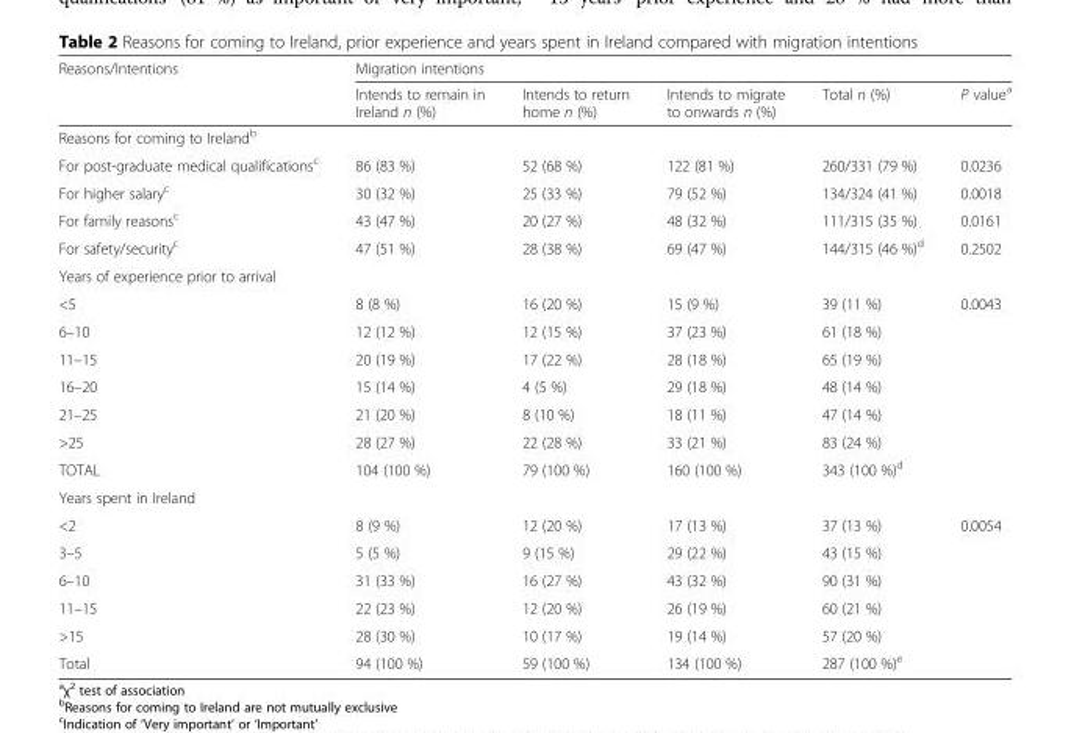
<table><thead><tr><td rowspan="2">Reasons/Intentions</td><td colspan="5">Migration intentions</td></tr><tr><td>Intends to remain in Ireland n (%)</td><td>Intends to return home n (%)</td><td>Intends to migrate to onwards n (%)</td><td>Total n (%)</td><td>P value<sup>a</sup></td></tr></thead><tbody><tr><td colspan="6">Reasons for coming to Ireland<sup>b</sup></td></tr><tr><td>For post-graduate medical qualifications<sup>c</sup></td><td>86 (83 %)</td><td>52 (68 %)</td><td>122 (81 %)</td><td>260/331 (79 %)</td><td>0.0236</td></tr><tr><td>For higher salary<sup>c</sup></td><td>30 (32 %)</td><td>25 (33 %)</td><td>79 (52 %)</td><td>134/324 (41 %)</td><td>0.0018</td></tr><tr><td>For family reasons<sup>c</sup></td><td>43 (47 %)</td><td>20 (27 %)</td><td>48 (32 %)</td><td>111/315 (35 %)</td><td>0.0161</td></tr><tr><td>For safety/security<sup>c</sup></td><td>47 (51 %)</td><td>28 (38 %)</td><td>69 (47 %)</td><td>144/315 (46 %)<sup>d</sup></td><td>0.2502</td></tr><tr><td colspan="6">Years of experience prior to arrival</td></tr><tr><td>&lt;5</td><td>8 (8 %)</td><td>16 (20 %)</td><td>15 (9 %)</td><td>39 (11 %)</td><td rowspan="7">0.0043</td></tr><tr><td>6–10</td><td>12 (12 %)</td><td>12 (15 %)</td><td>37 (23 %)</td><td>61 (18 %)</td></tr><tr><td>11–15</td><td>20 (19 %)</td><td>17 (22 %)</td><td>28 (18 %)</td><td>65 (19 %)</td></tr><tr><td>16–20</td><td>15 (14 %)</td><td>4 (5 %)</td><td>29 (18 %)</td><td>48 (14 %)</td></tr><tr><td>21–25</td><td>21 (20 %)</td><td>8 (10 %)</td><td>18 (11 %)</td><td>47 (14 %)</td></tr><tr><td>&gt;25</td><td>28 (27 %)</td><td>22 (28 %)</td><td>33 (21 %)</td><td>83 (24 %)</td></tr><tr><td>TOTAL</td><td>104 (100 %)</td><td>79 (100 %)</td><td>160 (100 %)</td><td>343 (100 %)<sup>d</sup></td></tr><tr><td colspan="6">Years spent in Ireland</td></tr><tr><td>&lt;2</td><td>8 (9 %)</td><td>12 (20 %)</td><td>17 (13 %)</td><td>37 (13 %)</td><td rowspan="6">0.0054</td></tr><tr><td>3–5</td><td>5 (5 %)</td><td>9 (15 %)</td><td>29 (22 %)</td><td>43 (15 %)</td></tr><tr><td>6–10</td><td>31 (33 %)</td><td>16 (27 %)</td><td>43 (32 %)</td><td>90 (31 %)</td></tr><tr><td>11–15</td><td>22 (23 %)</td><td>12 (20 %)</td><td>26 (19 %)</td><td>60 (21 %)</td></tr><tr><td>&gt;15</td><td>28 (30 %)</td><td>10 (17 %)</td><td>19 (14 %)</td><td>57 (20 %)</td></tr><tr><td>Total</td><td>94 (100 %)</td><td>59 (100 %)</td><td>134 (100 %)</td><td>287 (100 %)<sup>e</sup></td></tr></tbody></table>